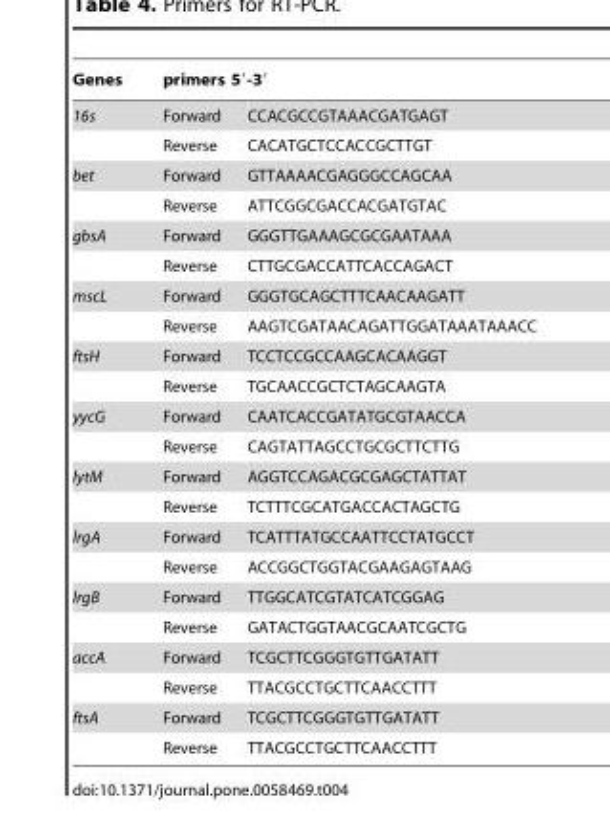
<table><thead><tr><td rowspan="2">Genes 16s</td><td colspan="2">primers 5′-3′</td></tr><tr><td>Forward</td><td>CCACGCCGTAAACGATGAGT</td></tr></thead><tbody><tr><td></td><td>Reverse</td><td>CACATGCTCCACCGCTTGT</td></tr><tr><td rowspan="2">bet</td><td>Forward</td><td>GTTAAAACGAGGGCCAGCAA</td></tr><tr><td>Reverse</td><td>ATTCGGCGACCACGATGTAC</td></tr><tr><td rowspan="2">gbsA</td><td>Forward</td><td>GGGTTGAAAGCGCGAATAAA</td></tr><tr><td>Reverse</td><td>CTTGCGACCATTCACCAGACT</td></tr><tr><td rowspan="2">mscL</td><td>Forward</td><td>GGGTGCAGCTTTCAACAAGATT</td></tr><tr><td>Reverse</td><td>AAGTCGATAACAGATTGGATAAATAAACC</td></tr><tr><td rowspan="2">ftsH</td><td>Forward</td><td>TCCTCCGCCAAGCACAAGGT</td></tr><tr><td>Reverse</td><td>TGCAACCGCTCTAGCAAGTA</td></tr><tr><td rowspan="2">yycG</td><td>Forward</td><td>CAATCACCGATATGCGTAACCA</td></tr><tr><td>Reverse</td><td>CAGTATTAGCCTGCGCTTCTTG</td></tr><tr><td rowspan="2">lytM</td><td>Forward</td><td>AGGTCCAGACGCGAGCTATTAT</td></tr><tr><td>Reverse</td><td>TCTTTCGCATGACCACTAGCTG</td></tr><tr><td rowspan="2">lrgA</td><td>Forward</td><td>TCATTTATGCCAATTCCTATGCCT</td></tr><tr><td>Reverse</td><td>ACCGGCTGGTACGAAGAGTAAG</td></tr><tr><td rowspan="2">lrgB</td><td>Forward</td><td>TTGGCATCGTATCATCGGAG</td></tr><tr><td>Reverse</td><td>GATACTGGTAACGCAATCGCTG</td></tr><tr><td rowspan="2">accA</td><td>Forward</td><td>TCGCTTCGGGTGTTGATATT</td></tr><tr><td>Reverse</td><td>TTACGCCTGCTTCAACCTTT</td></tr><tr><td rowspan="2">ftsA</td><td>Forward</td><td>TCGCTTCGGGTGTTGATATT</td></tr><tr><td>Reverse</td><td>TTACGCCTGCTTCAACCTTT</td></tr></tbody></table>